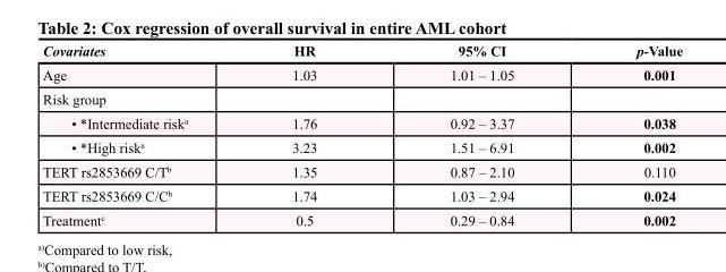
<table><thead><tr><td>Covariates</td><td>HR</td><td>95% CI</td><td>p-Value</td></tr></thead><tbody><tr><td>Age</td><td>1.03</td><td>1.01 – 1.05</td><td>0.001</td></tr><tr><td colspan="4">Risk group</td></tr><tr><td>• *Intermediate risk<sup>a</sup></td><td>1.76</td><td>0.92 – 3.37</td><td>0.038</td></tr><tr><td>• *High risk<sup>a</sup></td><td>3.23</td><td>1.51 – 6.91</td><td>0.002</td></tr><tr><td>TERT rs2853669 C/T<sup>b</sup></td><td>1.35</td><td>0.87 – 2.10</td><td>0.110</td></tr><tr><td>TERT rs2853669 C/C<sup>b</sup></td><td>1.74</td><td>1.03 – 2.94</td><td>0.024</td></tr><tr><td>Treatment<sup>c</sup></td><td>0.5</td><td>0.29 – 0.84</td><td>0.002</td></tr></tbody></table>